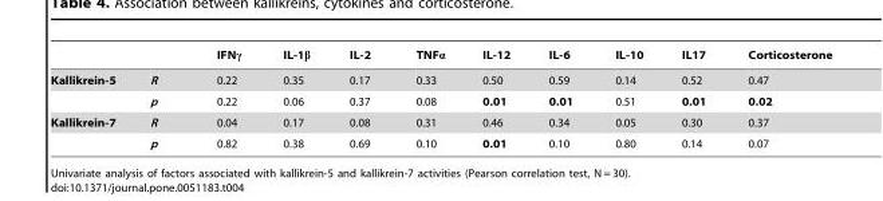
<table><thead><tr><td></td><td></td><td>IFNγ</td><td>IL-1β</td><td>IL-2</td><td>TNFα</td><td>IL-12</td><td>IL-6</td><td>IL-10</td><td>IL17</td><td>Corticosterone</td></tr></thead><tbody><tr><td rowspan="2">Kallikrein-5</td><td>R</td><td>0.22</td><td>0.35</td><td>0.17</td><td>0.33</td><td>0.50</td><td>0.59</td><td>0.14</td><td>0.52</td><td>0.47</td></tr><tr><td>p</td><td>0.22</td><td>0.06</td><td>0.37</td><td>0.08</td><td>0.01</td><td>0.01</td><td>0.51</td><td>0.01</td><td>0.02</td></tr><tr><td rowspan="2">Kallikrein-7</td><td>R</td><td>0.04</td><td>0.17</td><td>0.08</td><td>0.31</td><td>0.46</td><td>0.34</td><td>0.05</td><td>0.30</td><td>0.37</td></tr><tr><td>p</td><td>0.82</td><td>0.38</td><td>0.69</td><td>0.10</td><td>0.01</td><td>0.10</td><td>0.80</td><td>0.14</td><td>0.07</td></tr></tbody></table>